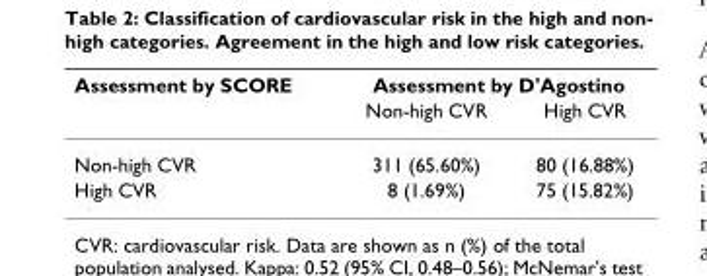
<table><thead><tr><td rowspan="2">Assessment by SCORE</td><td colspan="2">Assessment by D&#x27;Agostino</td></tr><tr><td>Non-high CVR</td><td>High CVR</td></tr></thead><tbody><tr><td>Non-high CVR</td><td>311 (65.60%)</td><td>80 (16.88%)</td></tr><tr><td>High CVR</td><td>8 (1.69%)</td><td>75 (15.82%)</td></tr></tbody></table>